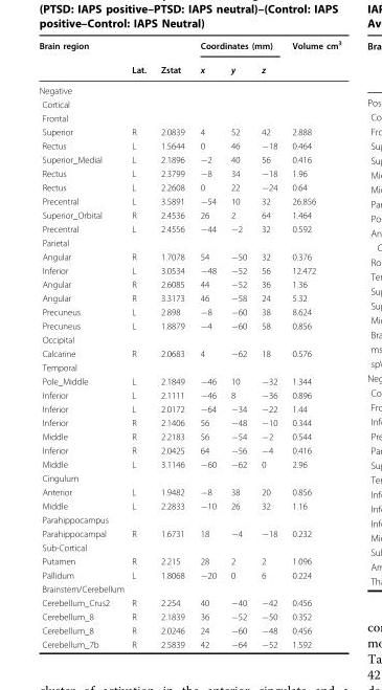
<table><thead><tr><td rowspan="2">Brain region</td><td rowspan="2">Lat.</td><td rowspan="2">Zstat</td><td colspan="3">Coordinates (mm)</td><td rowspan="2">Volume cm<sup>3</sup></td></tr><tr><td>x</td><td>y</td><td>z</td></tr></thead><tbody><tr><td colspan="7">Negative</td></tr><tr><td colspan="7">Cortical</td></tr><tr><td colspan="7">Frontal</td></tr><tr><td>Superior</td><td>R</td><td>2.0839</td><td>4</td><td>52</td><td>42</td><td>2.888</td></tr><tr><td>Rectus</td><td>L</td><td>1.5644</td><td>0</td><td>46</td><td>−18</td><td>0.464</td></tr><tr><td>Superior_Medial</td><td>L</td><td>2.1896</td><td>−2</td><td>40</td><td>56</td><td>0.416</td></tr><tr><td>Rectus</td><td>L</td><td>2.3799</td><td>−8</td><td>34</td><td>−18</td><td>1.96</td></tr><tr><td>Rectus</td><td>L</td><td>2.2608</td><td>0</td><td>22</td><td>−24</td><td>0.64</td></tr><tr><td>Precentral</td><td>L</td><td>3.5891</td><td>−54</td><td>10</td><td>32</td><td>26.856</td></tr><tr><td>Superior_Orbital</td><td>R</td><td>2.4536</td><td>26</td><td>2</td><td>64</td><td>1.464</td></tr><tr><td>Precentral</td><td>L</td><td>2.4556</td><td>−44</td><td>−2</td><td>32</td><td>0.592</td></tr><tr><td colspan="7">Parietal</td></tr><tr><td>Angular</td><td>R</td><td>1.7078</td><td>54</td><td>−50</td><td>32</td><td>0.376</td></tr><tr><td>Inferior</td><td>L</td><td>3.0534</td><td>−48</td><td>−52</td><td>56</td><td>12.472</td></tr><tr><td>Angular</td><td>R</td><td>2.6085</td><td>44</td><td>−52</td><td>36</td><td>1.36</td></tr><tr><td>Angular</td><td>R</td><td>3.3173</td><td>46</td><td>−58</td><td>24</td><td>5.32</td></tr><tr><td>Precuneus</td><td>L</td><td>2.898</td><td>−8</td><td>−60</td><td>38</td><td>8.624</td></tr><tr><td>Precuneus</td><td>L</td><td>1.8879</td><td>−4</td><td>−60</td><td>58</td><td>0.856</td></tr><tr><td colspan="7">Occipital</td></tr><tr><td>Calcarine</td><td>R</td><td>2.0683</td><td>4</td><td>−62</td><td>18</td><td>0.576</td></tr><tr><td colspan="7">Temporal</td></tr><tr><td>Pole_Middle</td><td>L</td><td>2.1849</td><td>−46</td><td>10</td><td>−32</td><td>1.344</td></tr><tr><td>Inferior</td><td>L</td><td>2.1111</td><td>−46</td><td>8</td><td>−36</td><td>0.896</td></tr><tr><td>Inferior</td><td>L</td><td>2.0172</td><td>−64</td><td>−34</td><td>−22</td><td>1.44</td></tr><tr><td>Inferior</td><td>R</td><td>2.1406</td><td>56</td><td>−48</td><td>−10</td><td>0.344</td></tr><tr><td>Middle</td><td>R</td><td>2.2183</td><td>56</td><td>−54</td><td>−2</td><td>0.544</td></tr><tr><td>Inferior</td><td>R</td><td>2.0425</td><td>64</td><td>−56</td><td>−4</td><td>0.416</td></tr><tr><td>Middle</td><td>L</td><td>3.1146</td><td>−60</td><td>−62</td><td>0</td><td>2.96</td></tr><tr><td colspan="7">Cingulum</td></tr><tr><td>Anterior</td><td>L</td><td>1.9482</td><td>−8</td><td>38</td><td>20</td><td>0.856</td></tr><tr><td>Middle</td><td>L</td><td>2.2833</td><td>−10</td><td>26</td><td>32</td><td>1.16</td></tr><tr><td colspan="7">Parahippocampus</td></tr><tr><td>Parahippocampal</td><td>R</td><td>1.6731</td><td>18</td><td>−4</td><td>−18</td><td>0.232</td></tr><tr><td colspan="7">Sub-Cortical</td></tr><tr><td>Putamen</td><td>R</td><td>2.215</td><td>28</td><td>2</td><td>2</td><td>1.096</td></tr><tr><td>Pallidum</td><td>L</td><td>1.8068</td><td>−20</td><td>0</td><td>6</td><td>0.224</td></tr><tr><td colspan="7">Brainstem/Cerebellum</td></tr><tr><td>Cerebellum_Crus2</td><td>R</td><td>2.254</td><td>40</td><td>−40</td><td>−42</td><td>0.456</td></tr><tr><td>Cerebellum_8</td><td>R</td><td>2.1839</td><td>36</td><td>−52</td><td>−50</td><td>0.352</td></tr><tr><td>Cerebellum_8</td><td>R</td><td>2.0246</td><td>24</td><td>−60</td><td>−48</td><td>0.456</td></tr><tr><td>Cerebellum_7b</td><td>R</td><td>2.5839</td><td>42</td><td>−64</td><td>−52</td><td>1.592</td></tr></tbody></table>